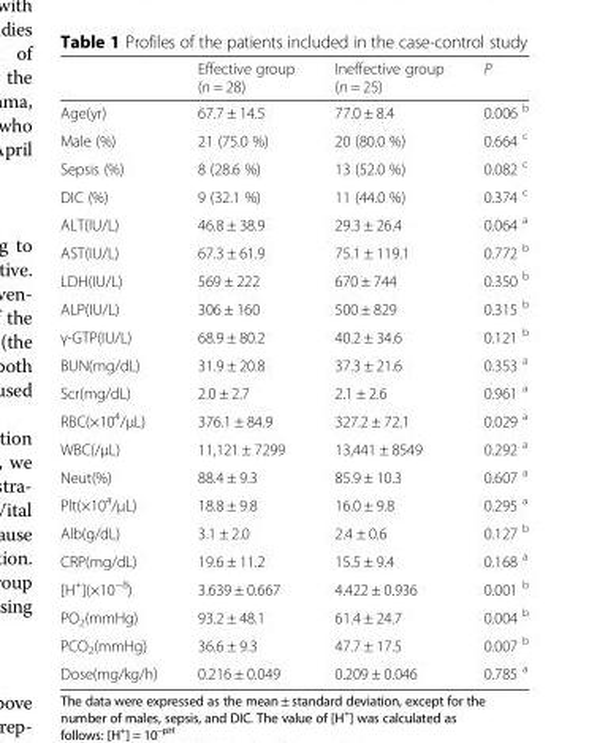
<table><thead><tr><td></td><td>Effective group (n = 28)</td><td>Ineffective group (n = 25)</td><td>P</td></tr></thead><tbody><tr><td>Age(yr)</td><td>67.7 ± 14.5</td><td>77.0 ± 8.4</td><td>0.006 <sup>b</sup></td></tr><tr><td>Male (%)</td><td>21 (75.0 %)</td><td>20 (80.0 %)</td><td>0.664 <sup>c</sup></td></tr><tr><td>Sepsis (%)</td><td>8 (28.6 %)</td><td>13 (52.0 %)</td><td>0.082 <sup>c</sup></td></tr><tr><td>DIC (%)</td><td>9 (32.1 %)</td><td>11 (44.0 %)</td><td>0.374 <sup>c</sup></td></tr><tr><td>ALT(IU/L)</td><td>46.8 ± 38.9</td><td>29.3 ± 26.4</td><td>0.064 <sup>a</sup></td></tr><tr><td>AST(IU/L)</td><td>67.3 ± 61.9</td><td>75.1 ± 119.1</td><td>0.772 <sup>b</sup></td></tr><tr><td>LDH(IU/L)</td><td>569 ± 222</td><td>670 ± 744</td><td>0.350 <sup>b</sup></td></tr><tr><td>ALP(IU/L)</td><td>306 ± 160</td><td>500 ± 829</td><td>0.315 <sup>b</sup></td></tr><tr><td>γ-GTP(IU/L)</td><td>68.9 ± 80.2</td><td>40.2 ± 34.6</td><td>0.121 <sup>b</sup></td></tr><tr><td>BUN(mg/dL)</td><td>31.9 ± 20.8</td><td>37.3 ± 21.6</td><td>0.353 <sup>a</sup></td></tr><tr><td>Scr(mg/dL)</td><td>2.0 ± 2.7</td><td>2.1 ± 2.6</td><td>0.961 <sup>a</sup></td></tr><tr><td>RBC(×10<sup>4</sup>/μL)</td><td>376.1 ± 84.9</td><td>327.2 ± 72.1</td><td>0.029 <sup>a</sup></td></tr><tr><td>WBC(/μL)</td><td>11,121 ± 7299</td><td>13,441 ± 8549</td><td>0.292 <sup>a</sup></td></tr><tr><td>Neut(%)</td><td>88.4 ± 9.3</td><td>85.9 ± 10.3</td><td>0.607 <sup>a</sup></td></tr><tr><td>Plt(×10<sup>4</sup>/μL)</td><td>18.8 ± 9.8</td><td>16.0 ± 9.8</td><td>0.295 <sup>a</sup></td></tr><tr><td>Alb(g/dL)</td><td>3.1 ± 2.0</td><td>2.4 ± 0.6</td><td>0.127 <sup>b</sup></td></tr><tr><td>CRP(mg/dL)</td><td>19.6 ± 11.2</td><td>15.5 ± 9.4</td><td>0.168 <sup>a</sup></td></tr><tr><td>[H<sup>+</sup>](×10<sup>−8</sup>)</td><td>3.639 ± 0.667</td><td>4.422 ± 0.936</td><td>0.001 <sup>b</sup></td></tr><tr><td>PO<sub>2</sub>(mmHg)</td><td>93.2 ± 48.1</td><td>61.4 ± 24.7</td><td>0.004 <sup>b</sup></td></tr><tr><td>PCO<sub>2</sub>(mmHg)</td><td>36.6 ± 9.3</td><td>47.7 ± 17.5</td><td>0.007 <sup>b</sup></td></tr><tr><td>Dose(mg/kg/h)</td><td>0.216 ± 0.049</td><td>0.209 ± 0.046</td><td>0.785 <sup>a</sup></td></tr></tbody></table>